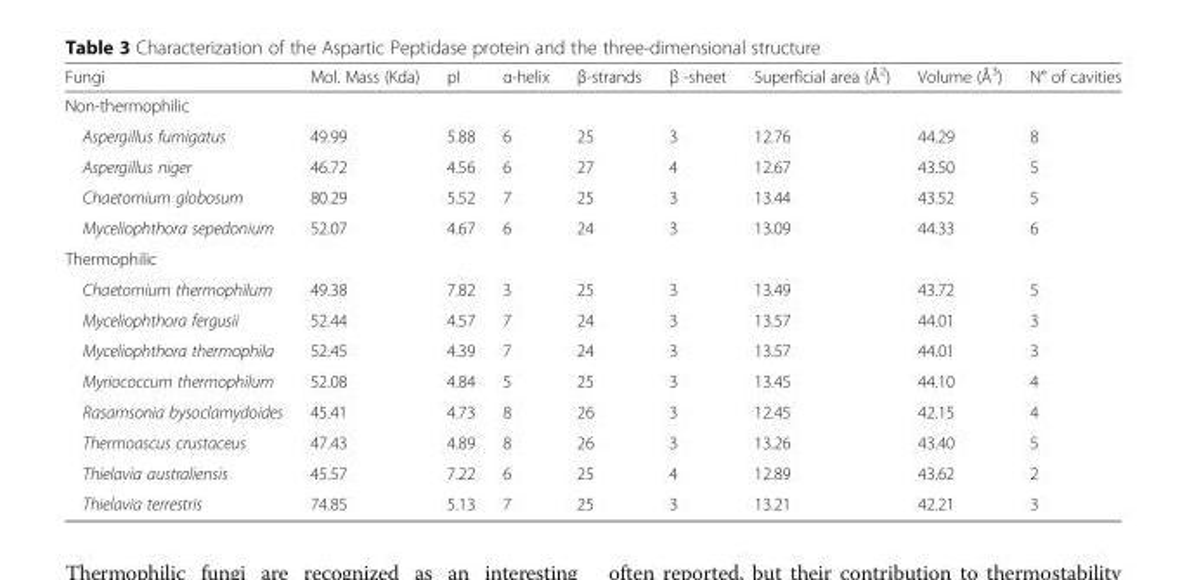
<table><thead><tr><td>Fungi</td><td>Mol. Mass (Kda)</td><td>pI</td><td>α-helix</td><td>β-strands</td><td>β -sheet</td><td>Superficial area (Å<sup>2</sup>)</td><td>Volume (Å<sup>3</sup>)</td><td>N° of cavities</td></tr></thead><tbody><tr><td colspan="9">Non-thermophilic</td></tr><tr><td>Aspergillus fumigatus</td><td>49.99</td><td>5.88</td><td>6</td><td>25</td><td>3</td><td>12.76</td><td>44.29</td><td>8</td></tr><tr><td>Aspergillus niger</td><td>46.72</td><td>4.56</td><td>6</td><td>27</td><td>4</td><td>12.67</td><td>43.50</td><td>5</td></tr><tr><td>Chaetomium globosum</td><td>80.29</td><td>5.52</td><td>7</td><td>25</td><td>3</td><td>13.44</td><td>43.52</td><td>5</td></tr><tr><td>Myceliophthora sepedonium</td><td>52.07</td><td>4.67</td><td>6</td><td>24</td><td>3</td><td>13.09</td><td>44.33</td><td>6</td></tr><tr><td colspan="9">Thermophilic</td></tr><tr><td>Chaetomium thermophilum</td><td>49.38</td><td>7.82</td><td>3</td><td>25</td><td>3</td><td>13.49</td><td>43.72</td><td>5</td></tr><tr><td>Myceliophthora fergusii</td><td>52.44</td><td>4.57</td><td>7</td><td>24</td><td>3</td><td>13.57</td><td>44.01</td><td>3</td></tr><tr><td>Myceliophthora thermophila</td><td>52.45</td><td>4.39</td><td>7</td><td>24</td><td>3</td><td>13.57</td><td>44.01</td><td>3</td></tr><tr><td>Myriococcum thermophilum</td><td>52.08</td><td>4.84</td><td>5</td><td>25</td><td>3</td><td>13.45</td><td>44.10</td><td>4</td></tr><tr><td>Rasamsonia bysoclamydoides</td><td>45.41</td><td>4.73</td><td>8</td><td>26</td><td>3</td><td>12.45</td><td>42.15</td><td>4</td></tr><tr><td>Thermoascus crustaceus</td><td>47.43</td><td>4.89</td><td>8</td><td>26</td><td>3</td><td>13.26</td><td>43.40</td><td>5</td></tr><tr><td>Thielavia australiensis</td><td>45.57</td><td>7.22</td><td>6</td><td>25</td><td>4</td><td>12.89</td><td>43.62</td><td>2</td></tr><tr><td>Thielavia terrestris</td><td>74.85</td><td>5.13</td><td>7</td><td>25</td><td>3</td><td>13.21</td><td>42.21</td><td>3</td></tr></tbody></table>